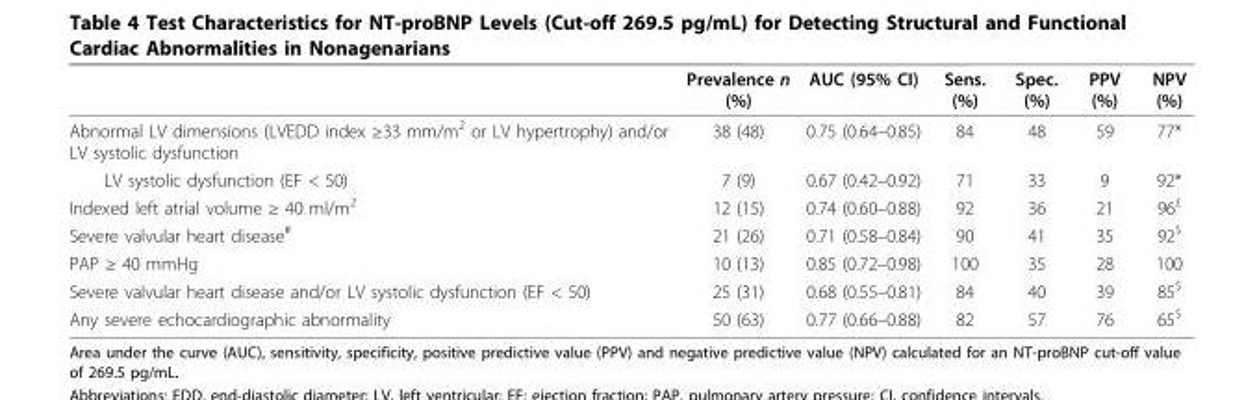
<table><thead><tr><td></td><td>Prevalence n (%)</td><td>AUC (95% CI)</td><td>Sens. (%)</td><td>Spec. (%)</td><td>PPV (%)</td><td>NPV (%)</td></tr></thead><tbody><tr><td>Abnormal LV dimensions (LVEDD index ≥33 mm/m<sup>2</sup> or LV hypertrophy) and/or LV systolic dysfunction</td><td>38 (48)</td><td>0.75 (0.64–0.85)</td><td>84</td><td>48</td><td>59</td><td>77*</td></tr><tr><td>LV systolic dysfunction (EF &lt; 50)</td><td>7 (9)</td><td>0.67 (0.42–0.92)</td><td>71</td><td>33</td><td>9</td><td>92*</td></tr><tr><td>Indexed left atrial volume ≥ 40 ml/m<sup>2</sup></td><td>12 (15)</td><td>0.74 (0.60–0.88)</td><td>92</td><td>36</td><td>21</td><td>96<sup>£</sup></td></tr><tr><td>Severe valvular heart disease<sup>#</sup></td><td>21 (26)</td><td>0.71 (0.58–0.84)</td><td>90</td><td>41</td><td>35</td><td>92<sup>$</sup></td></tr><tr><td>PAP ≥ 40 mmHg</td><td>10 (13)</td><td>0.85 (0.72–0.98)</td><td>100</td><td>35</td><td>28</td><td>100</td></tr><tr><td>Severe valvular heart disease and/or LV systolic dysfunction (EF &lt; 50)</td><td>25 (31)</td><td>0.68 (0.55–0.81)</td><td>84</td><td>40</td><td>39</td><td>85<sup>$</sup></td></tr><tr><td>Any severe echocardiographic abnormality</td><td>50 (63)</td><td>0.77 (0.66–0.88)</td><td>82</td><td>57</td><td>76</td><td>65<sup>$</sup></td></tr></tbody></table>